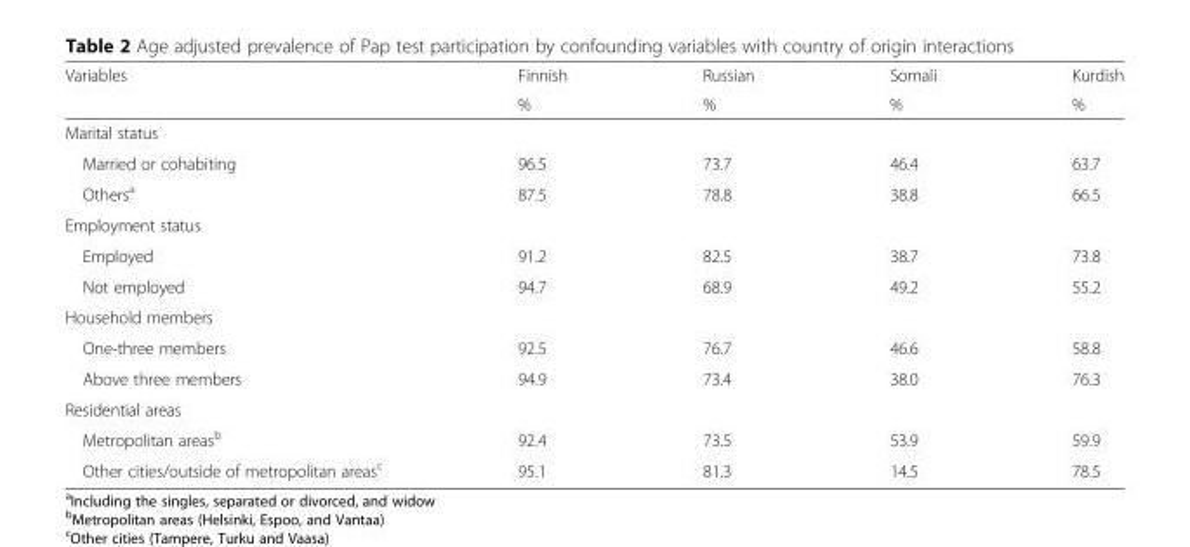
<table><thead><tr><td rowspan="2">Variables</td><td rowspan="2">Finnish %</td><td rowspan="2">Russian %</td><td rowspan="2">Somali %</td><td rowspan="2">Kurdish %</td></tr><tr></tr></thead><tbody><tr><td colspan="5">Marital status</td></tr><tr><td>Married or cohabiting</td><td>96.5</td><td>73.7</td><td>46.4</td><td>63.7</td></tr><tr><td>Others<sup>a</sup></td><td>87.5</td><td>78.8</td><td>38.8</td><td>66.5</td></tr><tr><td colspan="5">Employment status</td></tr><tr><td>Employed</td><td>91.2</td><td>82.5</td><td>38.7</td><td>73.8</td></tr><tr><td>Not employed</td><td>94.7</td><td>68.9</td><td>49.2</td><td>55.2</td></tr><tr><td colspan="5">Household members</td></tr><tr><td>One-three members</td><td>92.5</td><td>76.7</td><td>46.6</td><td>58.8</td></tr><tr><td>Above three members</td><td>94.9</td><td>73.4</td><td>38.0</td><td>76.3</td></tr><tr><td colspan="5">Residential areas</td></tr><tr><td>Metropolitan areas<sup>b</sup></td><td>92.4</td><td>73.5</td><td>53.9</td><td>59.9</td></tr><tr><td>Other cities/outside of metropolitan areas<sup>c</sup></td><td>95.1</td><td>81.3</td><td>14.5</td><td>78.5</td></tr></tbody></table>